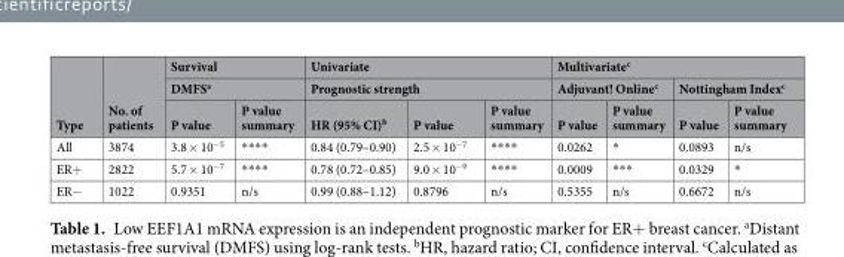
<table><thead><tr><td rowspan="3">Type</td><td rowspan="3">No. of patients</td><td rowspan="2" colspan="2">Survival DMFS<sup>a</sup></td><td rowspan="2" colspan="3">Univariate Prognostic strength</td><td colspan="4">Multivariate<sup>c</sup></td></tr><tr><td colspan="2">Adjuvant! Online<sup>c</sup></td><td colspan="2">Nottingham Index<sup>c</sup></td></tr><tr><td>P value</td><td>P value summary</td><td>HR (95% CI)<sup>b</sup></td><td>P value</td><td>P value summary</td><td>P value</td><td>P value summary</td><td>P value</td><td>P value summary</td></tr></thead><tbody><tr><td>All</td><td>3874</td><td>3.8 × 10<sup>−5</sup></td><td>****</td><td>0.84 (0.79–0.90)</td><td>2.5 × 10<sup>−7</sup></td><td>****</td><td>0.0262</td><td>*</td><td>0.0893</td><td>n/s</td></tr><tr><td>ER+</td><td>2822</td><td>5.7 × 10<sup>−7</sup></td><td>****</td><td>0.78 (0.72–0.85)</td><td>9.0 × 10<sup>−9</sup></td><td>****</td><td>0.0009</td><td>***</td><td>0.0329</td><td>*</td></tr><tr><td>ER−</td><td>1022</td><td>0.9351</td><td>n/s</td><td>0.99 (0.88–1.12)</td><td>0.8796</td><td>n/s</td><td>0.5355</td><td>n/s</td><td>0.6672</td><td>n/s</td></tr></tbody></table>